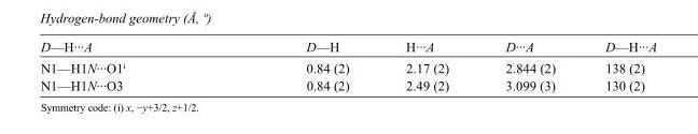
<table><tbody><tr><td>D—H···A</td><td>D—H</td><td>H···A</td><td>D···A</td><td>D—H···A</td></tr><tr><td>N1—H1N···O1<sup>i</sup></td><td>0.84 (2)</td><td>2.17 (2)</td><td>2.844 (2)</td><td>138 (2)</td></tr><tr><td>N1—H1N···O3</td><td>0.84 (2)</td><td>2.49 (2)</td><td>3.099 (3)</td><td>130 (2)</td></tr></tbody></table>